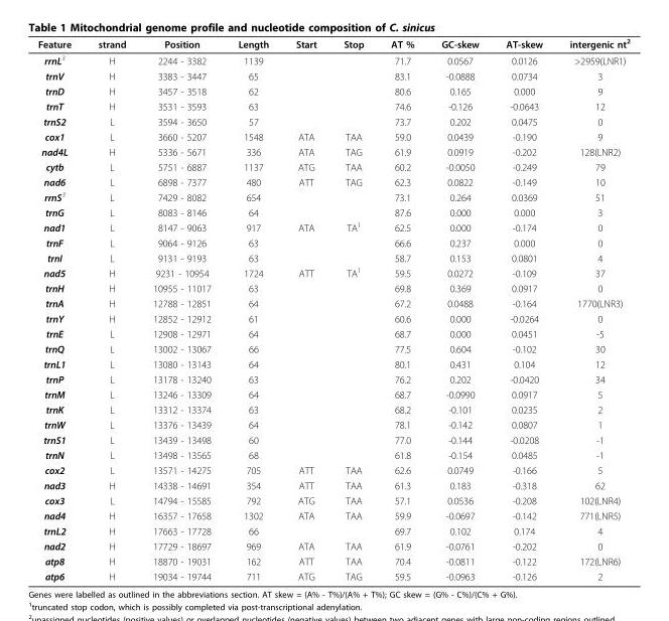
<table><thead><tr><td>Feature</td><td>strand</td><td>Position</td><td>Length</td><td>Start</td><td>Stop</td><td>AT %</td><td>GC-skew</td><td>AT-skew</td><td>intergenic nt<sup>2</sup></td></tr></thead><tbody><tr><td>rrnL<sup>3</sup></td><td>H</td><td>2244 - 3382</td><td>1139</td><td></td><td></td><td>71.7</td><td>0.0567</td><td>0.0126</td><td>&gt;2959(LNR1)</td></tr><tr><td>trnV</td><td>H</td><td>3383 - 3447</td><td>65</td><td></td><td></td><td>83.1</td><td>-0.0888</td><td>0.0734</td><td>3</td></tr><tr><td>trnD</td><td>H</td><td>3457 - 3518</td><td>62</td><td></td><td></td><td>80.6</td><td>0.165</td><td>0.000</td><td>9</td></tr><tr><td>trnT</td><td>H</td><td>3531 - 3593</td><td>63</td><td></td><td></td><td>74.6</td><td>-0.126</td><td>-0.0643</td><td>12</td></tr><tr><td>trnS2</td><td>L</td><td>3594 - 3650</td><td>57</td><td></td><td></td><td>73.7</td><td>0.202</td><td>0.0475</td><td>0</td></tr><tr><td>cox1</td><td>L</td><td>3660 - 5207</td><td>1548</td><td>ATA</td><td>TAA</td><td>59.0</td><td>0.0439</td><td>-0.190</td><td>9</td></tr><tr><td>nad4L</td><td>H</td><td>5336 - 5671</td><td>336</td><td>ATA</td><td>TAG</td><td>61.9</td><td>0.0919</td><td>-0.202</td><td>128(LNR2)</td></tr><tr><td>cytb</td><td>L</td><td>5751 - 6887</td><td>1137</td><td>ATG</td><td>TAA</td><td>60.2</td><td>-0.0050</td><td>-0.249</td><td>79</td></tr><tr><td>nad6</td><td>L</td><td>6898 - 7377</td><td>480</td><td>ATT</td><td>TAG</td><td>62.3</td><td>0.0822</td><td>-0.149</td><td>10</td></tr><tr><td>rrnS<sup>3</sup></td><td>L</td><td>7429 - 8082</td><td>654</td><td></td><td></td><td>73.1</td><td>0.264</td><td>0.0369</td><td>51</td></tr><tr><td>trnG</td><td>L</td><td>8083 - 8146</td><td>64</td><td></td><td></td><td>87.6</td><td>0.000</td><td>0.000</td><td>3</td></tr><tr><td>nad1</td><td>L</td><td>8147 - 9063</td><td>917</td><td>ATA</td><td>TA<sup>1</sup></td><td>62.5</td><td>0.000</td><td>-0.174</td><td>0</td></tr><tr><td>trnF</td><td>L</td><td>9064 - 9126</td><td>63</td><td></td><td></td><td>66.6</td><td>0.237</td><td>0.000</td><td>0</td></tr><tr><td>trnI</td><td>L</td><td>9131 - 9193</td><td>63</td><td></td><td></td><td>58.7</td><td>0.153</td><td>0.0801</td><td>4</td></tr><tr><td>nad5</td><td>H</td><td>9231 - 10954</td><td>1724</td><td>ATT</td><td>TA<sup>1</sup></td><td>59.5</td><td>0.0272</td><td>-0.109</td><td>37</td></tr><tr><td>trnH</td><td>H</td><td>10955 - 11017</td><td>63</td><td></td><td></td><td>69.8</td><td>0.369</td><td>0.0917</td><td>0</td></tr><tr><td>trnA</td><td>H</td><td>12788 - 12851</td><td>64</td><td></td><td></td><td>67.2</td><td>0.0488</td><td>-0.164</td><td>1770(LNR3)</td></tr><tr><td>trnY</td><td>H</td><td>12852 - 12912</td><td>61</td><td></td><td></td><td>60.6</td><td>0.000</td><td>-0.0264</td><td>0</td></tr><tr><td>trnE</td><td>L</td><td>12908 - 12971</td><td>64</td><td></td><td></td><td>68.7</td><td>0.000</td><td>0.0451</td><td>-5</td></tr><tr><td>trnQ</td><td>L</td><td>13002 - 13067</td><td>66</td><td></td><td></td><td>77.5</td><td>0.604</td><td>-0.102</td><td>30</td></tr><tr><td>trnL1</td><td>L</td><td>13080 - 13143</td><td>64</td><td></td><td></td><td>80.1</td><td>0.431</td><td>0.104</td><td>12</td></tr><tr><td>trnP</td><td>L</td><td>13178 - 13240</td><td>63</td><td></td><td></td><td>76.2</td><td>0.202</td><td>-0.0420</td><td>34</td></tr><tr><td>trnM</td><td>L</td><td>13246 - 13309</td><td>64</td><td></td><td></td><td>68.7</td><td>-0.0990</td><td>0.0917</td><td>5</td></tr><tr><td>trnK</td><td>L</td><td>13312 - 13374</td><td>63</td><td></td><td></td><td>68.2</td><td>-0.101</td><td>0.0235</td><td>2</td></tr><tr><td>trnW</td><td>L</td><td>13376 - 13439</td><td>64</td><td></td><td></td><td>78.1</td><td>-0.142</td><td>0.0807</td><td>1</td></tr><tr><td>trnS1</td><td>L</td><td>13439 - 13498</td><td>60</td><td></td><td></td><td>77.0</td><td>-0.144</td><td>-0.0208</td><td>-1</td></tr><tr><td>trnN</td><td>L</td><td>13498 - 13565</td><td>68</td><td></td><td></td><td>61.8</td><td>-0.154</td><td>0.0485</td><td>-1</td></tr><tr><td>cox2</td><td>L</td><td>13571 - 14275</td><td>705</td><td>ATT</td><td>TAA</td><td>62.6</td><td>0.0749</td><td>-0.166</td><td>5</td></tr><tr><td>nad3</td><td>H</td><td>14338 - 14691</td><td>354</td><td>ATT</td><td>TAA</td><td>61.3</td><td>0.183</td><td>-0.318</td><td>62</td></tr><tr><td>cox3</td><td>L</td><td>14794 - 15585</td><td>792</td><td>ATG</td><td>TAA</td><td>57.1</td><td>0.0536</td><td>-0.208</td><td>102(LNR4)</td></tr><tr><td>nad4</td><td>H</td><td>16357 - 17658</td><td>1302</td><td>ATA</td><td>TAA</td><td>59.9</td><td>-0.0697</td><td>-0.142</td><td>771(LNR5)</td></tr><tr><td>trnL2</td><td>H</td><td>17663 - 17728</td><td>66</td><td></td><td></td><td>69.7</td><td>0.102</td><td>0.174</td><td>4</td></tr><tr><td>nad2</td><td>H</td><td>17729 - 18697</td><td>969</td><td>ATA</td><td>TAA</td><td>61.9</td><td>-0.0761</td><td>-0.202</td><td>0</td></tr><tr><td>atp8</td><td>H</td><td>18870 - 19031</td><td>162</td><td>ATT</td><td>TAA</td><td>70.4</td><td>-0.0811</td><td>-0.122</td><td>172(LNR6)</td></tr><tr><td>atp6</td><td>H</td><td>19034 - 19744</td><td>711</td><td>ATG</td><td>TAG</td><td>59.5</td><td>-0.0963</td><td>-0.126</td><td>2</td></tr></tbody></table>